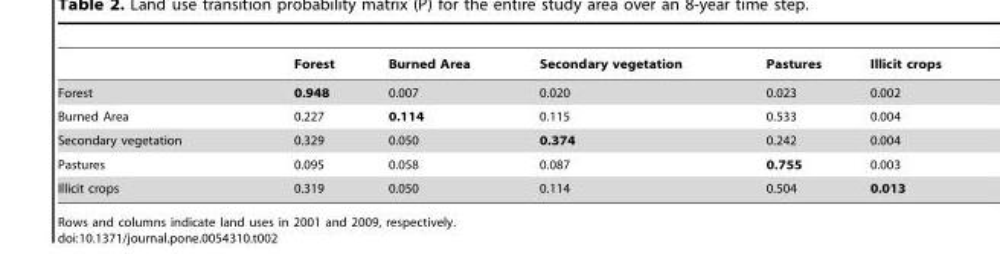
<table><thead><tr><td></td><td>Forest</td><td>Burned Area</td><td>Secondary vegetation</td><td>Pastures</td><td>Illicit crops</td></tr></thead><tbody><tr><td>Forest</td><td>0.948</td><td>0.007</td><td>0.020</td><td>0.023</td><td>0.002</td></tr><tr><td>Burned Area</td><td>0.227</td><td>0.114</td><td>0.115</td><td>0.533</td><td>0.004</td></tr><tr><td>Secondary vegetation</td><td>0.329</td><td>0.050</td><td>0.374</td><td>0.242</td><td>0.004</td></tr><tr><td>Pastures</td><td>0.095</td><td>0.058</td><td>0.087</td><td>0.755</td><td>0.003</td></tr><tr><td>Illicit crops</td><td>0.319</td><td>0.050</td><td>0.114</td><td>0.504</td><td>0.013</td></tr></tbody></table>